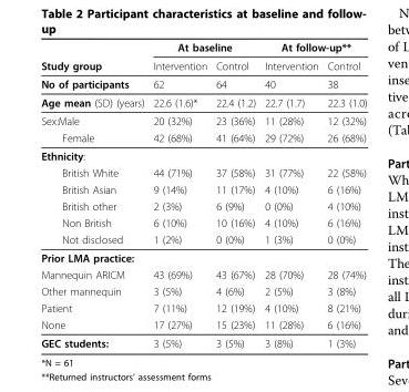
<table><thead><tr><td rowspan="2">Study group</td><td colspan="2">At baseline</td><td colspan="2">At follow-up**</td></tr><tr><td>Intervention</td><td>Control</td><td>Intervention</td><td>Control</td></tr></thead><tbody><tr><td>No of participants</td><td>62</td><td>64</td><td>40</td><td>38</td></tr><tr><td>Age mean (SD) (years)</td><td>22.6 (1.6)*</td><td>22.4 (1.2)</td><td>22.7 (1.7)</td><td>22.3 (1.0)</td></tr><tr><td>Sex:Male</td><td>20 (32%)</td><td>23 (36%)</td><td>11 (28%)</td><td>12 (32%)</td></tr><tr><td>Female</td><td>42 (68%)</td><td>41 (64%)</td><td>29 (72%)</td><td>26 (68%)</td></tr><tr><td colspan="5">Ethnicity:</td></tr><tr><td>British White</td><td>44 (71%)</td><td>37 (58%)</td><td>31 (77%)</td><td>22 (58%)</td></tr><tr><td>British Asian</td><td>9 (14%)</td><td>11 (17%)</td><td>4 (10%)</td><td>6 (16%)</td></tr><tr><td>British other</td><td>2 (3%)</td><td>6 (9%)</td><td>0 (0%)</td><td>4 (10%)</td></tr><tr><td>Non British</td><td>6 (10%)</td><td>10 (16%)</td><td>4 (10%)</td><td>6 (16%)</td></tr><tr><td>Not disclosed</td><td>1 (2%)</td><td>0 (0%)</td><td>1 (3%)</td><td>0 (0%)</td></tr><tr><td colspan="5">Prior LMA practice:</td></tr><tr><td>Mannequin ARICM</td><td>43 (69%)</td><td>43 (67%)</td><td>28 (70%)</td><td>28 (74%)</td></tr><tr><td>Other mannequin</td><td>3 (5%)</td><td>4 (6%)</td><td>2 (5%)</td><td>3 (8%)</td></tr><tr><td>Patient</td><td>7 (11%)</td><td>12 (19%)</td><td>4 (10%)</td><td>8 (21%)</td></tr><tr><td>None</td><td>17 (27%)</td><td>15 (23%)</td><td>11 (28%)</td><td>6 (16%)</td></tr><tr><td>GEC students:</td><td>3 (5%)</td><td>3 (5%)</td><td>3 (8%)</td><td>1 (3%)</td></tr></tbody></table>